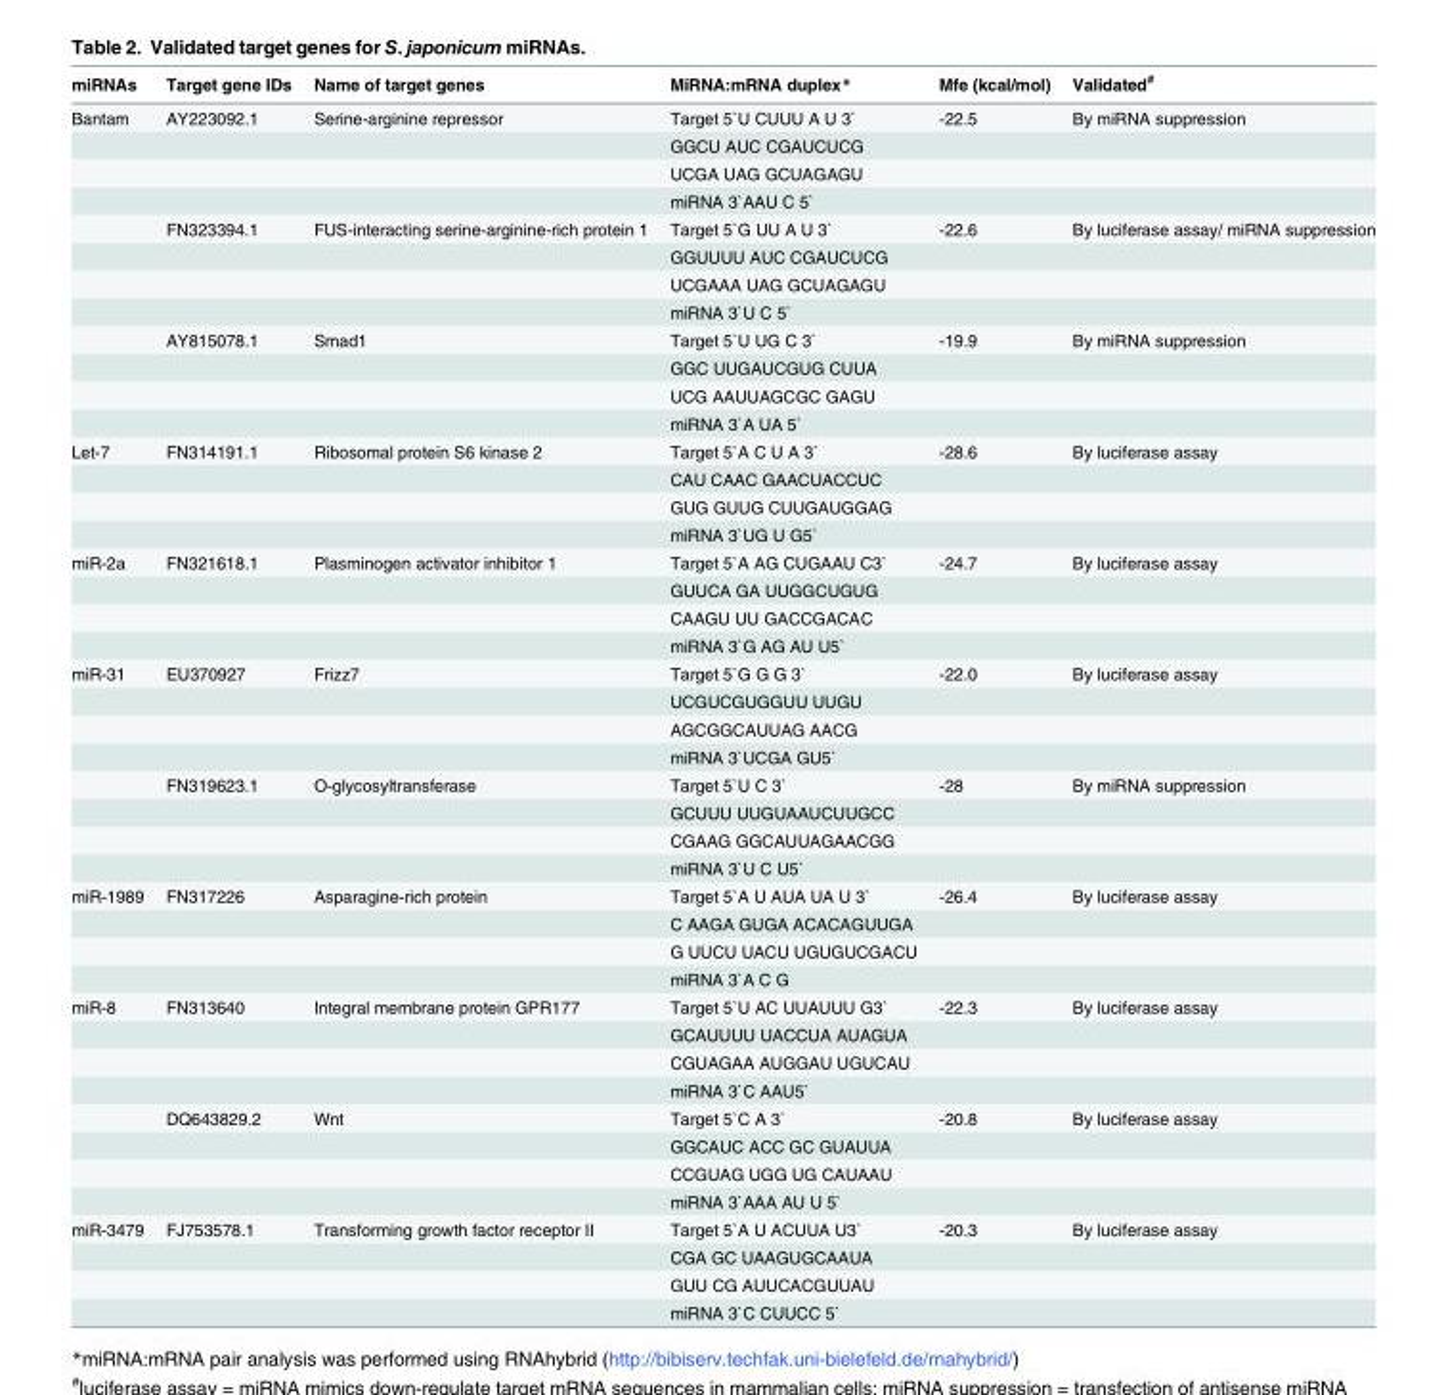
<table><thead><tr><td>miRNAs</td><td>Target gene IDs</td><td>Name of target genes</td><td>MiRNA:mRNA duplex*</td><td>Mfe (kcal/mol)</td><td>Validated<sup>#</sup></td></tr></thead><tbody><tr><td rowspan="12">Bantam</td><td>AY223092.1</td><td>Serine-arginine repressor</td><td>Target 5`U CUUU A U 3`</td><td>-22.5</td><td>By miRNA suppression</td></tr><tr><td></td><td></td><td>GGCU AUC CGAUCUCG</td><td></td><td></td></tr><tr><td></td><td></td><td>UCGA UAG GCUAGAGU</td><td></td><td></td></tr><tr><td></td><td></td><td>miRNA 3`AAU C 5`</td><td></td><td></td></tr><tr><td>FN323394.1</td><td>FUS-interacting serine-arginine-rich protein 1</td><td>Target 5`G UU A U 3`</td><td>-22.6</td><td>By luciferase assay/ miRNA suppression</td></tr><tr><td></td><td></td><td>GGUUUU AUC CGAUCUCG</td><td></td><td></td></tr><tr><td></td><td></td><td>UCGAAA UAG GCUAGAGU</td><td></td><td></td></tr><tr><td></td><td></td><td>miRNA 3`U C 5`</td><td></td><td></td></tr><tr><td>AY815078.1</td><td>Smad1</td><td>Target 5`U UG C 3`</td><td>-19.9</td><td>By miRNA suppression</td></tr><tr><td></td><td></td><td>GGC UUGAUCGUG CUUA</td><td></td><td></td></tr><tr><td></td><td></td><td>UCG AAUUAGCGC GAGU</td><td></td><td></td></tr><tr><td></td><td></td><td>miRNA 3`A UA 5`</td><td></td><td></td></tr><tr><td rowspan="4">Let-7</td><td>FN314191.1</td><td>Ribosomal protein S6 kinase 2</td><td>Target 5`A C U A 3`</td><td>-28.6</td><td>By luciferase assay</td></tr><tr><td></td><td></td><td>CAU CAAC GAACUACCUC</td><td></td><td></td></tr><tr><td></td><td></td><td>GUG GUUG CUUGAUGGAG</td><td></td><td></td></tr><tr><td></td><td></td><td>miRNA 3`UG U G5`</td><td></td><td></td></tr><tr><td rowspan="4">miR-2a</td><td>FN321618.1</td><td>Plasminogen activator inhibitor 1</td><td>Target 5`A AG CUGAAU C3`</td><td>-24.7</td><td>By luciferase assay</td></tr><tr><td></td><td></td><td>GUUCA GA UUGGCUGUG</td><td></td><td></td></tr><tr><td></td><td></td><td>CAAGU UU GACCGACAC</td><td></td><td></td></tr><tr><td></td><td></td><td>miRNA 3`G AG AU U5`</td><td></td><td></td></tr><tr><td rowspan="8">miR-31</td><td>EU370927</td><td>Frizz7</td><td>Target 5`G G G 3`</td><td>-22.0</td><td>By luciferase assay</td></tr><tr><td></td><td></td><td>UCGUCGUGGUU UUGU</td><td></td><td></td></tr><tr><td></td><td></td><td>AGCGGCAUUAG AACG</td><td></td><td></td></tr><tr><td></td><td></td><td>miRNA 3`UCGA GU5`</td><td></td><td></td></tr><tr><td>FN319623.1</td><td>O-glycosyltransferase</td><td>Target 5`U C 3`</td><td>-28</td><td>By miRNA suppression</td></tr><tr><td></td><td></td><td>GCUUU UUGUAAUCUUGCC</td><td></td><td></td></tr><tr><td></td><td></td><td>CGAAG GGCAUUAGAACGG</td><td></td><td></td></tr><tr><td></td><td></td><td>miRNA 3`U C U5`</td><td></td><td></td></tr><tr><td rowspan="4">miR-1989</td><td>FN317226</td><td>Asparagine-rich protein</td><td>Target 5`A U AUA UA U 3`</td><td>-26.4</td><td>By luciferase assay</td></tr><tr><td></td><td></td><td>C AAGA GUGA ACACAGUUGA</td><td></td><td></td></tr><tr><td></td><td></td><td>G UUCU UACU UGUGUCGACU</td><td></td><td></td></tr><tr><td></td><td></td><td>miRNA 3`A C G</td><td></td><td></td></tr><tr><td rowspan="8">miR-8</td><td>FN313640</td><td>Integral membrane protein GPR177</td><td>Target 5`U AC UUAUUU G3`</td><td>-22.3</td><td>By luciferase assay</td></tr><tr><td></td><td></td><td>GCAUUUU UACCUA AUAGUA</td><td></td><td></td></tr><tr><td></td><td></td><td>CGUAGAA AUGGAU UGUCAU</td><td></td><td></td></tr><tr><td></td><td></td><td>miRNA 3`C AAU5`</td><td></td><td></td></tr><tr><td>DQ643829.2</td><td>Wnt</td><td>Target 5`C A 3`</td><td>-20.8</td><td>By luciferase assay</td></tr><tr><td></td><td></td><td>GGCAUC ACC GC GUAUUA</td><td></td><td></td></tr><tr><td></td><td></td><td>CCGUAG UGG UG CAUAAU</td><td></td><td></td></tr><tr><td></td><td></td><td>miRNA 3`AAA AU U 5`</td><td></td><td></td></tr><tr><td rowspan="4">miR-3479</td><td>FJ753578.1</td><td>Transforming growth factor receptor II</td><td>Target 5`A U ACUUA U3`</td><td>-20.3</td><td>By luciferase assay</td></tr><tr><td></td><td></td><td>CGA GC UAAGUGCAAUA</td><td></td><td></td></tr><tr><td></td><td></td><td>GUU CG AUUCACGUUAU</td><td></td><td></td></tr><tr><td></td><td></td><td>miRNA 3`C CUUCC 5`</td><td></td><td></td></tr></tbody></table>